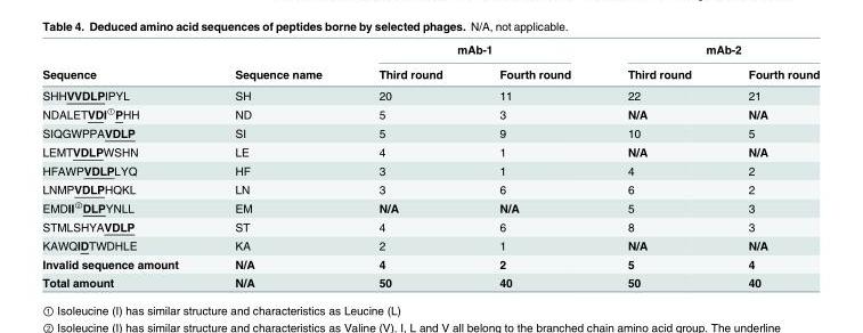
<table><thead><tr><td rowspan="2">Sequence</td><td rowspan="2">Sequence name</td><td colspan="2">mAb-1</td><td colspan="2">mAb-2</td></tr><tr><td>Third round</td><td>Fourth round</td><td>Third round</td><td>Fourth round</td></tr></thead><tbody><tr><td>SHHVVDLPIPYL</td><td>SH</td><td>20</td><td>11</td><td>22</td><td>21</td></tr><tr><td>NDALETVDI<sup>①</sup>PHH</td><td>ND</td><td>5</td><td>3</td><td>N/A</td><td>N/A</td></tr><tr><td>SIQGWPPAVDLP</td><td>SI</td><td>5</td><td>9</td><td>10</td><td>5</td></tr><tr><td>LEMTVDLPWSHN</td><td>LE</td><td>4</td><td>1</td><td>N/A</td><td>N/A</td></tr><tr><td>HFAWPVDLPLYQ</td><td>HF</td><td>3</td><td>1</td><td>4</td><td>2</td></tr><tr><td>LNMPVDLPHQKL</td><td>LN</td><td>3</td><td>6</td><td>6</td><td>2</td></tr><tr><td>EMDII<sup>②</sup>DLPYNLL</td><td>EM</td><td>N/A</td><td>N/A</td><td>5</td><td>3</td></tr><tr><td>STMLSHYAVDLP</td><td>ST</td><td>4</td><td>6</td><td>8</td><td>3</td></tr><tr><td>KAWQIDTWDHLE</td><td>KA</td><td>2</td><td>1</td><td>N/A</td><td>N/A</td></tr><tr><td>Invalid sequence amount</td><td>N/A</td><td>4</td><td>2</td><td>5</td><td>4</td></tr><tr><td>Total amount</td><td>N/A</td><td>50</td><td>40</td><td>50</td><td>40</td></tr></tbody></table>